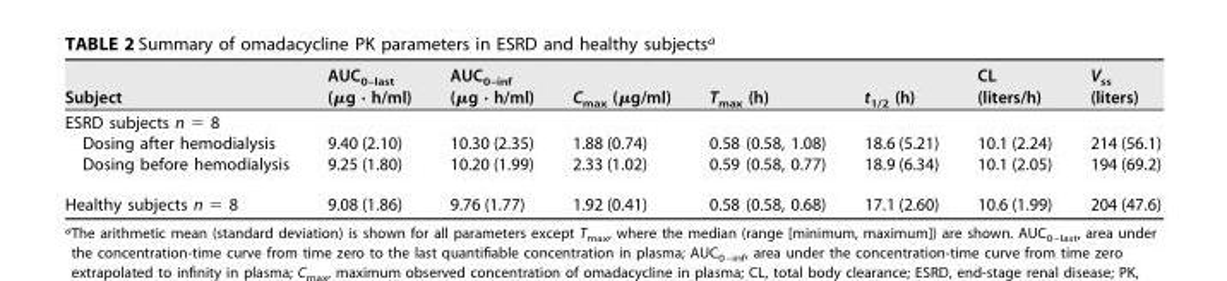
<table><thead><tr><td>Subject</td><td>AUC<sub>0–last</sub> (μg · h/ml)</td><td>AUC<sub>0–inf</sub> (μg · h/ml)</td><td>C<sub>max</sub> (μg/ml)</td><td>T<sub>max</sub> (h)</td><td>t<sub>1/2</sub> (h)</td><td>CL (liters/h)</td><td>V<sub>ss</sub> (liters)</td></tr></thead><tbody><tr><td colspan="8">ESRD subjects n = 8</td></tr><tr><td>Dosing after hemodialysis</td><td>9.40 (2.10)</td><td>10.30 (2.35)</td><td>1.88 (0.74)</td><td>0.58 (0.58, 1.08)</td><td>18.6 (5.21)</td><td>10.1 (2.24)</td><td>214 (56.1)</td></tr><tr><td>Dosing before hemodialysis</td><td>9.25 (1.80)</td><td>10.20 (1.99)</td><td>2.33 (1.02)</td><td>0.59 (0.58, 0.77)</td><td>18.9 (6.34)</td><td>10.1 (2.05)</td><td>194 (69.2)</td></tr><tr><td>Healthy subjects n = 8</td><td>9.08 (1.86)</td><td>9.76 (1.77)</td><td>1.92 (0.41)</td><td>0.58 (0.58, 0.68)</td><td>17.1 (2.60)</td><td>10.6 (1.99)</td><td>204 (47.6)</td></tr></tbody></table>